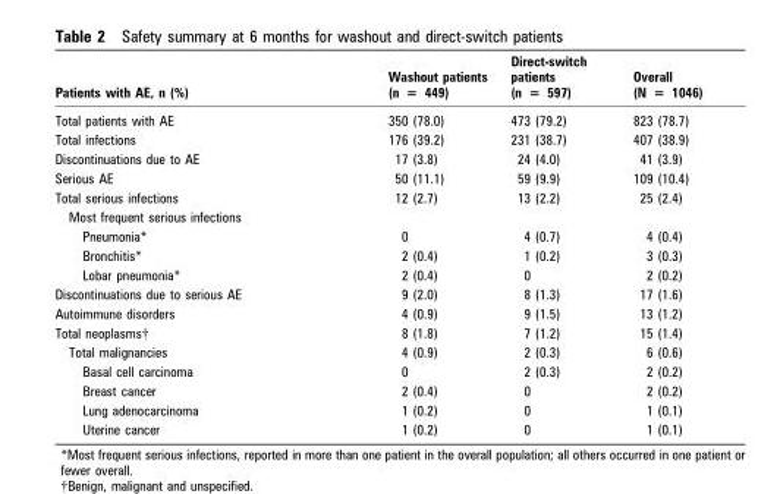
<table><thead><tr><td>Patients with AE, n (%)</td><td>Washout patients (n = 449)</td><td>Direct-switch patients (n = 597)</td><td>Overall (N = 1046)</td></tr></thead><tbody><tr><td>Total patients with AE</td><td>350 (78.0)</td><td>473 (79.2)</td><td>823 (78.7)</td></tr><tr><td>Total infections</td><td>176 (39.2)</td><td>231 (38.7)</td><td>407 (38.9)</td></tr><tr><td>Discontinuations due to AE</td><td>17 (3.8)</td><td>24 (4.0)</td><td>41 (3.9)</td></tr><tr><td>Serious AE</td><td>50 (11.1)</td><td>59 (9.9)</td><td>109 (10.4)</td></tr><tr><td>Total serious infections</td><td>12 (2.7)</td><td>13 (2.2)</td><td>25 (2.4)</td></tr><tr><td colspan="4">Most frequent serious infections</td></tr><tr><td>Pneumonia*</td><td>0</td><td>4 (0.7)</td><td>4 (0.4)</td></tr><tr><td>Bronchitis*</td><td>2 (0.4)</td><td>1 (0.2)</td><td>3 (0.3)</td></tr><tr><td>Lobar pneumonia*</td><td>2 (0.4)</td><td>0</td><td>2 (0.2)</td></tr><tr><td>Discontinuations due to serious AE</td><td>9 (2.0)</td><td>8 (1.3)</td><td>17 (1.6)</td></tr><tr><td>Autoimmune disorders</td><td>4 (0.9)</td><td>9 (1.5)</td><td>13 (1.2)</td></tr><tr><td>Total neoplasms†</td><td>8 (1.8)</td><td>7 (1.2)</td><td>15 (1.4)</td></tr><tr><td>Total malignancies</td><td>4 (0.9)</td><td>2 (0.3)</td><td>6 (0.6)</td></tr><tr><td>Basal cell carcinoma</td><td>0</td><td>2 (0.3)</td><td>2 (0.2)</td></tr><tr><td>Breast cancer</td><td>2 (0.4)</td><td>0</td><td>2 (0.2)</td></tr><tr><td>Lung adenocarcinoma</td><td>1 (0.2)</td><td>0</td><td>1 (0.1)</td></tr><tr><td>Uterine cancer</td><td>1 (0.2)</td><td>0</td><td>1 (0.1)</td></tr></tbody></table>